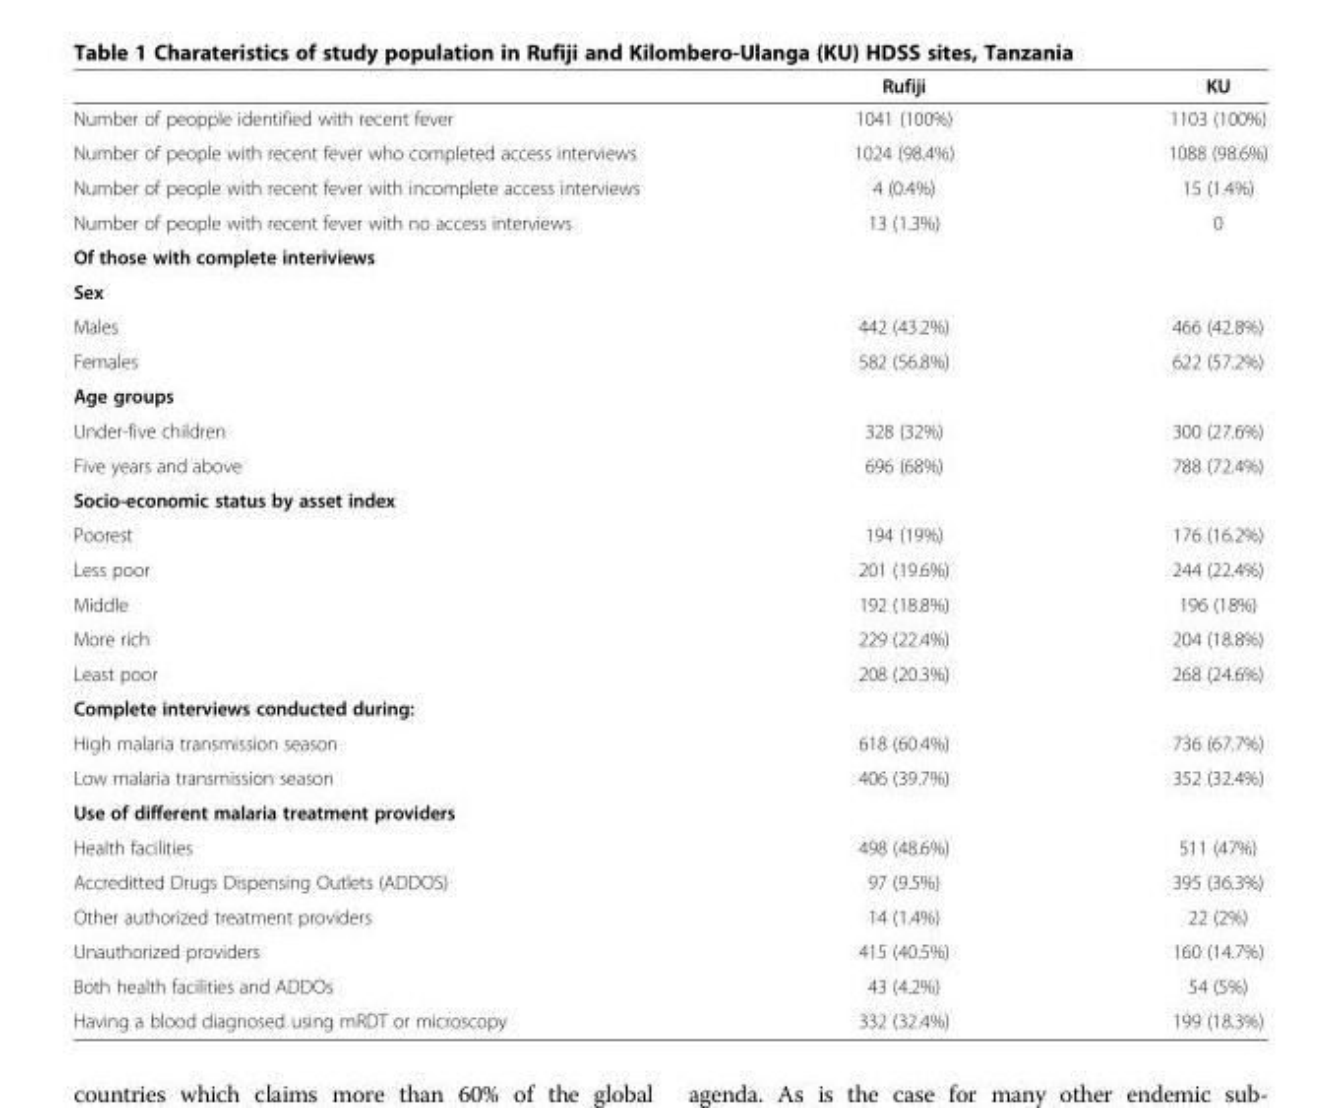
<table><thead><tr><td></td><td>Rufiji</td><td>KU</td></tr></thead><tbody><tr><td>Number of peopple identified with recent fever</td><td>1041 (100%)</td><td>1103 (100%)</td></tr><tr><td>Number of people with recent fever who completed access interviews</td><td>1024 (98.4%)</td><td>1088 (98.6%)</td></tr><tr><td>Number of people with recent fever with incomplete access interviews</td><td>4 (0.4%)</td><td>15 (1.4%)</td></tr><tr><td>Number of people with recent fever with no access interviews</td><td>13 (1.3%)</td><td>0</td></tr><tr><td colspan="3">Of those with complete interiviews</td></tr><tr><td colspan="3">Sex</td></tr><tr><td>Males</td><td>442 (43.2%)</td><td>466 (42.8%)</td></tr><tr><td>Females</td><td>582 (56.8%)</td><td>622 (57.2%)</td></tr><tr><td colspan="3">Age groups</td></tr><tr><td>Under-five children</td><td>328 (32%)</td><td>300 (27.6%)</td></tr><tr><td>Five years and above</td><td>696 (68%)</td><td>788 (72.4%)</td></tr><tr><td colspan="3">Socio-economic status by asset index</td></tr><tr><td>Poorest</td><td>194 (19%)</td><td>176 (16.2%)</td></tr><tr><td>Less poor</td><td>201 (19.6%)</td><td>244 (22.4%)</td></tr><tr><td>Middle</td><td>192 (18.8%)</td><td>196 (18%)</td></tr><tr><td>More rich</td><td>229 (22.4%)</td><td>204 (18.8%)</td></tr><tr><td>Least poor</td><td>208 (20.3%)</td><td>268 (24.6%)</td></tr><tr><td colspan="3">Complete interviews conducted during:</td></tr><tr><td>High malaria transmission season</td><td>618 (60.4%)</td><td>736 (67.7%)</td></tr><tr><td>Low malaria transmission season</td><td>406 (39.7%)</td><td>352 (32.4%)</td></tr><tr><td colspan="3">Use of different malaria treatment providers</td></tr><tr><td>Health facilities</td><td>498 (48.6%)</td><td>511 (47%)</td></tr><tr><td>Accreditted Drugs Dispensing Outlets (ADDOS)</td><td>97 (9.5%)</td><td>395 (36.3%)</td></tr><tr><td>Other authorized treatment providers</td><td>14 (1.4%)</td><td>22 (2%)</td></tr><tr><td>Unauthorized providers</td><td>415 (40.5%)</td><td>160 (14.7%)</td></tr><tr><td>Both health facilities and ADDOs</td><td>43 (4.2%)</td><td>54 (5%)</td></tr><tr><td>Having a blood diagnosed using mRDT or microscopy</td><td>332 (32.4%)</td><td>199 (18.3%)</td></tr></tbody></table>